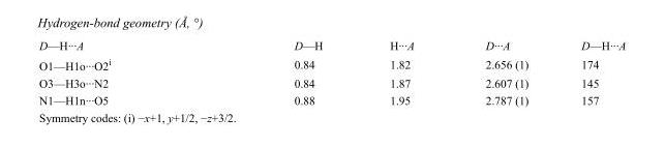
<table><tbody><tr><td>D—H···A</td><td>D—H</td><td>H···A</td><td>D···A</td><td>D—H···A</td></tr><tr><td>O1—H1o···O2<sup>i</sup></td><td>0.84</td><td>1.82</td><td>2.656 (1)</td><td>174</td></tr><tr><td>O3—H3o···N2</td><td>0.84</td><td>1.87</td><td>2.607 (1)</td><td>145</td></tr><tr><td>N1—H1n···O5</td><td>0.88</td><td>1.95</td><td>2.787 (1)</td><td>157</td></tr></tbody></table>